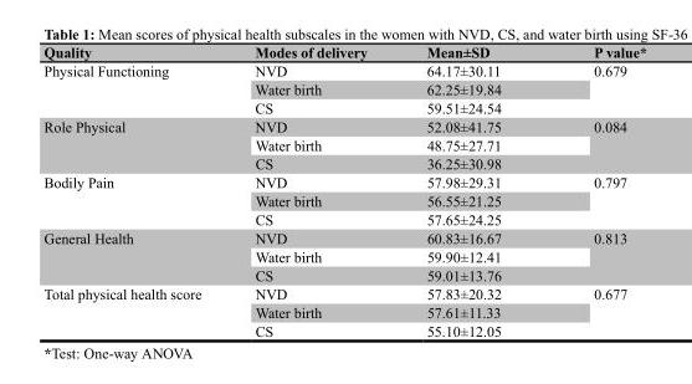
<table><thead><tr><td>Quality</td><td>Modes of delivery</td><td>Mean±SD</td><td>P value*</td></tr></thead><tbody><tr><td rowspan="3">Physical Functioning</td><td>NVD</td><td>64.17±30.11</td><td rowspan="3">0.679</td></tr><tr><td>Water birth</td><td>62.25±19.84</td></tr><tr><td>CS</td><td>59.51±24.54</td></tr><tr><td rowspan="3">Role Physical</td><td>NVD</td><td>52.08±41.75</td><td rowspan="3">0.084</td></tr><tr><td>Water birth</td><td>48.75±27.71</td></tr><tr><td>CS</td><td>36.25±30.98</td></tr><tr><td rowspan="3">Bodily Pain</td><td>NVD</td><td>57.98±29.31</td><td rowspan="3">0.797</td></tr><tr><td>Water birth</td><td>56.55±21.25</td></tr><tr><td>CS</td><td>57.65±24.25</td></tr><tr><td rowspan="3">General Health</td><td>NVD</td><td>60.83±16.67</td><td rowspan="3">0.813</td></tr><tr><td>Water birth</td><td>59.90±12.41</td></tr><tr><td>CS</td><td>59.01±13.76</td></tr><tr><td rowspan="3">Total physical health score</td><td>NVD</td><td>57.83±20.32</td><td rowspan="3">0.677</td></tr><tr><td>Water birth</td><td>57.61±11.33</td></tr><tr><td>CS</td><td>55.10±12.05</td></tr></tbody></table>